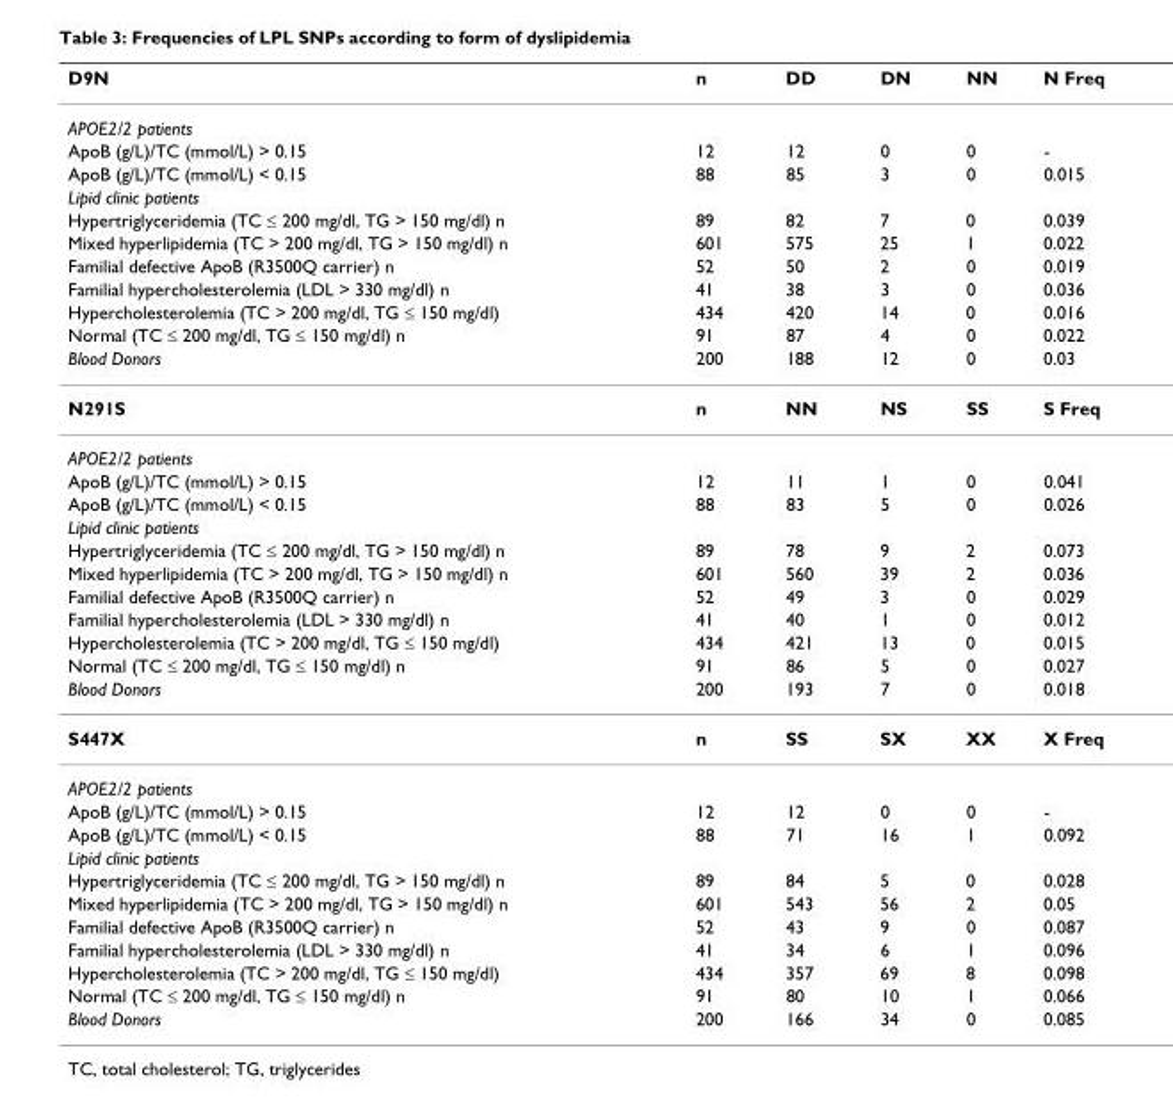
<table><thead><tr><td>D9N</td><td>n</td><td>DD</td><td>DN</td><td>NN</td><td>N Freq</td></tr></thead><tbody><tr><td colspan="6">APOE2/2 patients</td></tr><tr><td>ApoB (g/L)/TC (mmol/L) &gt; 0.15</td><td>12</td><td>12</td><td>0</td><td>0</td><td>-</td></tr><tr><td>ApoB (g/L)/TC (mmol/L) &lt; 0.15</td><td>88</td><td>85</td><td>3</td><td>0</td><td>0.015</td></tr><tr><td colspan="6">Lipid clinic patients</td></tr><tr><td>Hypertriglyceridemia (TC ≤ 200 mg/dl, TG &gt; 150 mg/dl) n</td><td>89</td><td>82</td><td>7</td><td>0</td><td>0.039</td></tr><tr><td>Mixed hyperlipidemia (TC &gt; 200 mg/dl, TG &gt; 150 mg/dl) n</td><td>601</td><td>575</td><td>25</td><td>1</td><td>0.022</td></tr><tr><td>Familial defective ApoB (R3500Q carrier) n</td><td>52</td><td>50</td><td>2</td><td>0</td><td>0.019</td></tr><tr><td>Familial hypercholesterolemia (LDL &gt; 330 mg/dl) n</td><td>41</td><td>38</td><td>3</td><td>0</td><td>0.036</td></tr><tr><td>Hypercholesterolemia (TC &gt; 200 mg/dl, TG ≤ 150 mg/dl)</td><td>434</td><td>420</td><td>14</td><td>0</td><td>0.016</td></tr><tr><td>Normal (TC ≤ 200 mg/dl, TG ≤ 150 mg/dl) n</td><td>91</td><td>87</td><td>4</td><td>0</td><td>0.022</td></tr><tr><td>Blood Donors</td><td>200</td><td>188</td><td>12</td><td>0</td><td>0.03</td></tr><tr><td>N291S</td><td>n</td><td>NN</td><td>NS</td><td>SS</td><td>S Freq</td></tr><tr><td colspan="6">APOE2/2 patients</td></tr><tr><td>ApoB (g/L)/TC (mmol/L) &gt; 0.15</td><td>12</td><td>11</td><td>1</td><td>0</td><td>0.041</td></tr><tr><td>ApoB (g/L)/TC (mmol/L) &lt; 0.15</td><td>88</td><td>83</td><td>5</td><td>0</td><td>0.026</td></tr><tr><td colspan="6">Lipid clinic patients</td></tr><tr><td>Hypertriglyceridemia (TC ≤ 200 mg/dl, TG &gt; 150 mg/dl) n</td><td>89</td><td>78</td><td>9</td><td>2</td><td>0.073</td></tr><tr><td>Mixed hyperlipidemia (TC &gt; 200 mg/dl, TG &gt; 150 mg/dl) n</td><td>601</td><td>560</td><td>39</td><td>2</td><td>0.036</td></tr><tr><td>Familial defective ApoB (R3500Q carrier) n</td><td>52</td><td>49</td><td>3</td><td>0</td><td>0.029</td></tr><tr><td>Familial hypercholesterolemia (LDL &gt; 330 mg/dl) n</td><td>41</td><td>40</td><td>1</td><td>0</td><td>0.012</td></tr><tr><td>Hypercholesterolemia (TC &gt; 200 mg/dl, TG ≤ 150 mg/dl)</td><td>434</td><td>421</td><td>13</td><td>0</td><td>0.015</td></tr><tr><td>Normal (TC ≤ 200 mg/dl, TG ≤ 150 mg/dl) n</td><td>91</td><td>86</td><td>5</td><td>0</td><td>0.027</td></tr><tr><td>Blood Donors</td><td>200</td><td>193</td><td>7</td><td>0</td><td>0.018</td></tr><tr><td>S447X</td><td>n</td><td>SS</td><td>SX</td><td>XX</td><td>X Freq</td></tr><tr><td colspan="6">APOE2/2 patients</td></tr><tr><td>ApoB (g/L)/TC (mmol/L) &gt; 0.15</td><td>12</td><td>12</td><td>0</td><td>0</td><td>-</td></tr><tr><td>ApoB (g/L)/TC (mmol/L) &lt; 0.15</td><td>88</td><td>71</td><td>16</td><td>1</td><td>0.092</td></tr><tr><td colspan="6">Lipid clinic patients</td></tr><tr><td>Hypertriglyceridemia (TC ≤ 200 mg/dl, TG &gt; 150 mg/dl) n</td><td>89</td><td>84</td><td>5</td><td>0</td><td>0.028</td></tr><tr><td>Mixed hyperlipidemia (TC &gt; 200 mg/dl, TG &gt; 150 mg/dl) n</td><td>601</td><td>543</td><td>56</td><td>2</td><td>0.05</td></tr><tr><td>Familial defective ApoB (R3500Q carrier) n</td><td>52</td><td>43</td><td>9</td><td>0</td><td>0.087</td></tr><tr><td>Familial hypercholesterolemia (LDL &gt; 330 mg/dl) n</td><td>41</td><td>34</td><td>6</td><td>1</td><td>0.096</td></tr><tr><td>Hypercholesterolemia (TC &gt; 200 mg/dl, TG ≤ 150 mg/dl)</td><td>434</td><td>357</td><td>69</td><td>8</td><td>0.098</td></tr><tr><td>Normal (TC ≤ 200 mg/dl, TG ≤ 150 mg/dl) n</td><td>91</td><td>80</td><td>10</td><td>1</td><td>0.066</td></tr><tr><td>Blood Donors</td><td>200</td><td>166</td><td>34</td><td>0</td><td>0.085</td></tr></tbody></table>